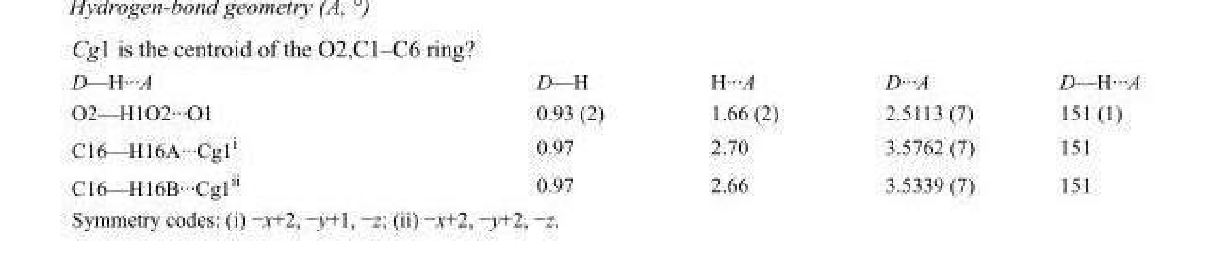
<table><tbody><tr><td>D—H···A</td><td>D—H</td><td>H···A</td><td>D···A</td><td>D—H···A</td></tr><tr><td>O2—H1O2···O1</td><td>0.93 (2)</td><td>1.66 (2)</td><td>2.5113 (7)</td><td>151 (1)</td></tr><tr><td>C16—H16A···Cg1<sup>i</sup></td><td>0.97</td><td>2.70</td><td>3.5762 (7)</td><td>151</td></tr><tr><td>C16—H16B···Cg1<sup>ii</sup></td><td>0.97</td><td>2.66</td><td>3.5339 (7)</td><td>151</td></tr></tbody></table>